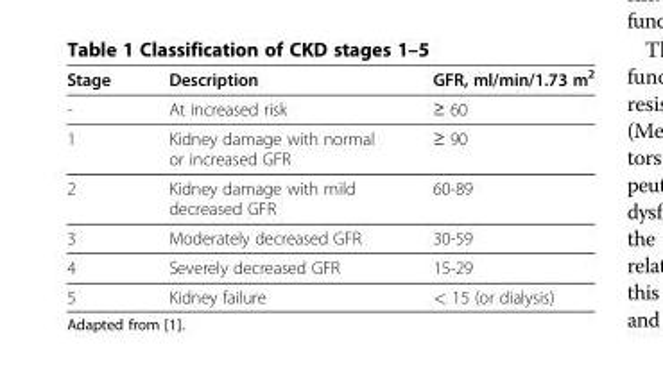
<table><thead><tr><td>Stage</td><td>Description</td><td>GFR, ml/min/1.73 m<sup>2</sup></td></tr></thead><tbody><tr><td>-</td><td>At increased risk</td><td>≥ 60</td></tr><tr><td>1</td><td>Kidney damage with normal or increased GFR</td><td>≥ 90</td></tr><tr><td>2</td><td>Kidney damage with mild decreased GFR</td><td>60-89</td></tr><tr><td>3</td><td>Moderately decreased GFR</td><td>30-59</td></tr><tr><td>4</td><td>Severely decreased GFR</td><td>15-29</td></tr><tr><td>5</td><td>Kidney failure</td><td>&lt; 15 (or dialysis)</td></tr></tbody></table>